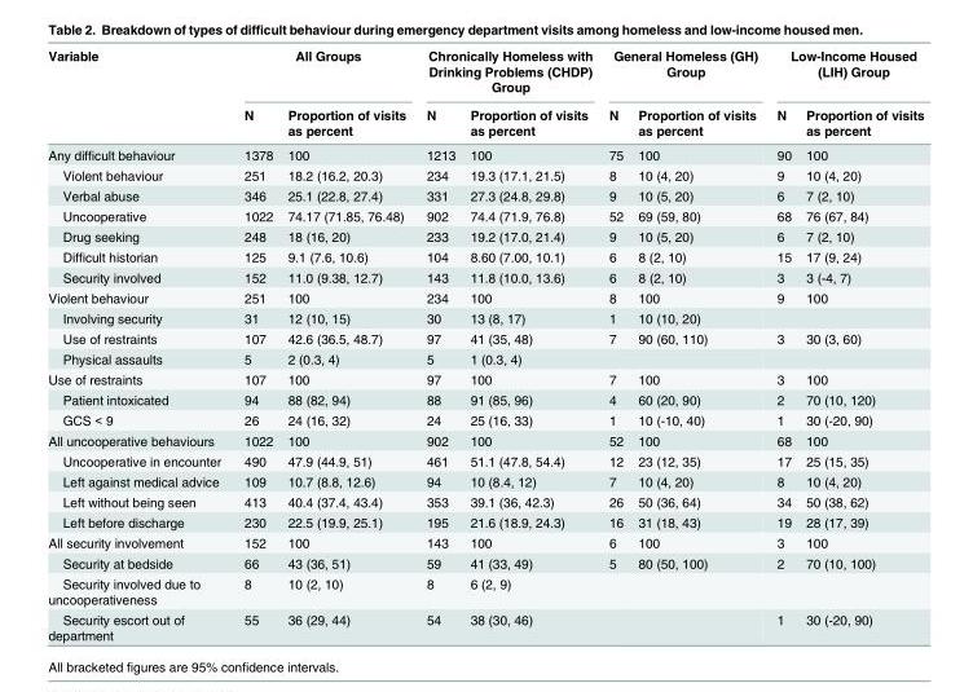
<table><thead><tr><td rowspan="2">Variable</td><td colspan="2">All Groups</td><td colspan="2">Chronically Homeless with Drinking Problems (CHDP) Group</td><td colspan="2">General Homeless (GH) Group</td><td colspan="2">Low-Income Housed (LIH) Group</td></tr><tr><td>N</td><td>Proportion of visits as percent</td><td>N</td><td>Proportion of visits as percent</td><td>N</td><td>Proportion of visits as percent</td><td>N</td><td>Proportion of visits as percent</td></tr></thead><tbody><tr><td>Any difficult behaviour</td><td>1378</td><td>100</td><td>1213</td><td>100</td><td>75</td><td>100</td><td>90</td><td>100</td></tr><tr><td>Violent behaviour</td><td>251</td><td>18.2 (16.2, 20.3)</td><td>234</td><td>19.3 (17.1, 21.5)</td><td>8</td><td>10 (4, 20)</td><td>9</td><td>10 (4, 20)</td></tr><tr><td>Verbal abuse</td><td>346</td><td>25.1 (22.8, 27.4)</td><td>331</td><td>27.3 (24.8, 29.8)</td><td>9</td><td>10 (5, 20)</td><td>6</td><td>7 (2, 10)</td></tr><tr><td>Uncooperative</td><td>1022</td><td>74.17 (71.85, 76.48)</td><td>902</td><td>74.4 (71.9, 76.8)</td><td>52</td><td>69 (59, 80)</td><td>68</td><td>76 (67, 84)</td></tr><tr><td>Drug seeking</td><td>248</td><td>18 (16, 20)</td><td>233</td><td>19.2 (17.0, 21.4)</td><td>9</td><td>10 (5, 20)</td><td>6</td><td>7 (2, 10)</td></tr><tr><td>Difficult historian</td><td>125</td><td>9.1 (7.6, 10.6)</td><td>104</td><td>8.60 (7.00, 10.1)</td><td>6</td><td>8 (2, 10)</td><td>15</td><td>17 (9, 24)</td></tr><tr><td>Security involved</td><td>152</td><td>11.0 (9.38, 12.7)</td><td>143</td><td>11.8 (10.0, 13.6)</td><td>6</td><td>8 (2, 10)</td><td>3</td><td>3 (-4, 7)</td></tr><tr><td>Violent behaviour</td><td>251</td><td>100</td><td>234</td><td>100</td><td>8</td><td>100</td><td>9</td><td>100</td></tr><tr><td>Involving security</td><td>31</td><td>12 (10, 15)</td><td>30</td><td>13 (8, 17)</td><td>1</td><td>10 (10, 20)</td><td></td><td></td></tr><tr><td>Use of restraints</td><td>107</td><td>42.6 (36.5, 48.7)</td><td>97</td><td>41 (35, 48)</td><td>7</td><td>90 (60, 110)</td><td>3</td><td>30 (3, 60)</td></tr><tr><td>Physical assaults</td><td>5</td><td>2 (0.3, 4)</td><td>5</td><td>1 (0.3, 4)</td><td></td><td></td><td></td><td></td></tr><tr><td>Use of restraints</td><td>107</td><td>100</td><td>97</td><td>100</td><td>7</td><td>100</td><td>3</td><td>100</td></tr><tr><td>Patient intoxicated</td><td>94</td><td>88 (82, 94)</td><td>88</td><td>91 (85, 96)</td><td>4</td><td>60 (20, 90)</td><td>2</td><td>70 (10, 120)</td></tr><tr><td>GCS &lt; 9</td><td>26</td><td>24 (16, 32)</td><td>24</td><td>25 (16, 33)</td><td>1</td><td>10 (-10, 40)</td><td>1</td><td>30 (-20, 90)</td></tr><tr><td>All uncooperative behaviours</td><td>1022</td><td>100</td><td>902</td><td>100</td><td>52</td><td>100</td><td>68</td><td>100</td></tr><tr><td>Uncooperative in encounter</td><td>490</td><td>47.9 (44.9, 51)</td><td>461</td><td>51.1 (47.8, 54.4)</td><td>12</td><td>23 (12, 35)</td><td>17</td><td>25 (15, 35)</td></tr><tr><td>Left against medical advice</td><td>109</td><td>10.7 (8.8, 12.6)</td><td>94</td><td>10 (8.4, 12)</td><td>7</td><td>10 (4, 20)</td><td>8</td><td>10 (4, 20)</td></tr><tr><td>Left without being seen</td><td>413</td><td>40.4 (37.4, 43.4)</td><td>353</td><td>39.1 (36, 42.3)</td><td>26</td><td>50 (36, 64)</td><td>34</td><td>50 (38, 62)</td></tr><tr><td>Left before discharge</td><td>230</td><td>22.5 (19.9, 25.1)</td><td>195</td><td>21.6 (18.9, 24.3)</td><td>16</td><td>31 (18, 43)</td><td>19</td><td>28 (17, 39)</td></tr><tr><td>All security involvement</td><td>152</td><td>100</td><td>143</td><td>100</td><td>6</td><td>100</td><td>3</td><td>100</td></tr><tr><td>Security at bedside</td><td>66</td><td>43 (36, 51)</td><td>59</td><td>41 (33, 49)</td><td>5</td><td>80 (50, 100)</td><td>2</td><td>70 (10, 100)</td></tr><tr><td>Security involved due to uncooperativeness</td><td>8</td><td>10 (2, 10)</td><td>8</td><td>6 (2, 9)</td><td></td><td></td><td></td><td></td></tr><tr><td>Security escort out of department</td><td>55</td><td>36 (29, 44)</td><td>54</td><td>38 (30, 46)</td><td></td><td></td><td>1</td><td>30 (-20, 90)</td></tr></tbody></table>